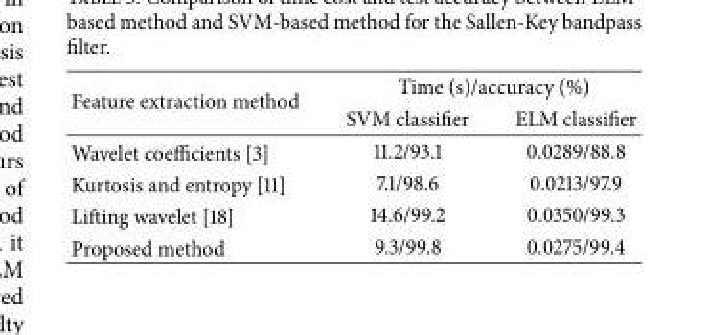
<table><thead><tr><td rowspan="2">Feature extraction method</td><td colspan="2">Time (s)/accuracy (%)</td></tr><tr><td>SVM classifier</td><td>ELM classifier</td></tr></thead><tbody><tr><td>Wavelet coefficients [3]</td><td>11.2/93.1</td><td>0.0289/88.8</td></tr><tr><td>Kurtosis and entropy [11]</td><td>7.1/98.6</td><td>0.0213/97.9</td></tr><tr><td>Lifting wavelet [18]</td><td>14.6/99.2</td><td>0.0350/99.3</td></tr><tr><td>Proposed method</td><td>9.3/99.8</td><td>0.0275/99.4</td></tr></tbody></table>